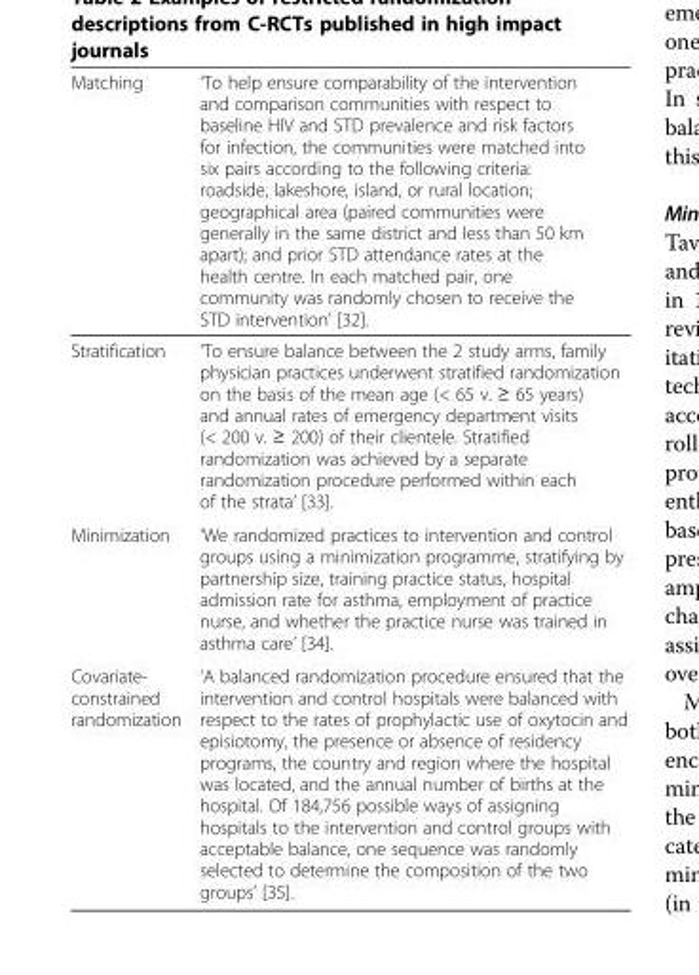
<table><thead><tr><td>Matching</td><td>‘To help ensure comparability of the intervention and comparison communities with respect to baseline HIV and STD prevalence and risk factors for infection, the communities were matched into six pairs according to the following criteria: roadside, lakeshore, island, or rural location; geographical area (paired communities were generally in the same district and less than 50 km apart); and prior STD attendance rates at the health centre. In each matched pair, one community was randomly chosen to receive the STD intervention’ [32].</td></tr></thead><tbody><tr><td>Stratification</td><td>‘To ensure balance between the 2 study arms, family physician practices underwent stratified randomization on the basis of the mean age (&lt; 65 v. ≥ 65 years) and annual rates of emergency department visits (&lt; 200 v. ≥ 200) of their clientele. Stratified randomization was achieved by a separate randomization procedure performed within each of the strata’ [33].</td></tr><tr><td>Minimization</td><td>‘We randomized practices to intervention and control groups using a minimization programme, stratifying by partnership size, training practice status, hospital admission rate for asthma, employment of practice nurse, and whether the practice nurse was trained in asthma care’ [34].</td></tr><tr><td>Covariate- constrained randomization</td><td>‘A balanced randomization procedure ensured that the intervention and control hospitals were balanced with respect to the rates of prophylactic use of oxytocin and episiotomy, the presence or absence of residency programs, the country and region where the hospital was located, and the annual number of births at the hospital. Of 184,756 possible ways of assigning hospitals to the intervention and control groups with acceptable balance, one sequence was randomly selected to determine the composition of the two groups’ [35].</td></tr></tbody></table>